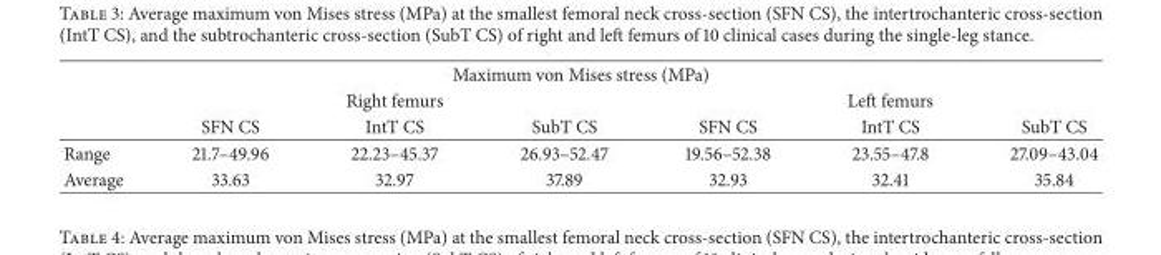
<table><thead><tr><td colspan="7">Maximum von Mises stress (MPa)</td></tr><tr><td rowspan="2"></td><td rowspan="2">SFN CS</td><td rowspan="2">Right femurs IntT CS</td><td rowspan="2">SubT CS</td><td rowspan="2">SFN CS</td><td rowspan="2">Left femurs IntT CS</td><td rowspan="2">SubT CS</td></tr><tr></tr></thead><tbody><tr><td>Range</td><td>21.7–49.96</td><td>22.23–45.37</td><td>26.93–52.47</td><td>19.56–52.38</td><td>23.55–47.8</td><td>27.09–43.04</td></tr><tr><td>Average</td><td>33.63</td><td>32.97</td><td>37.89</td><td>32.93</td><td>32.41</td><td>35.84</td></tr></tbody></table>